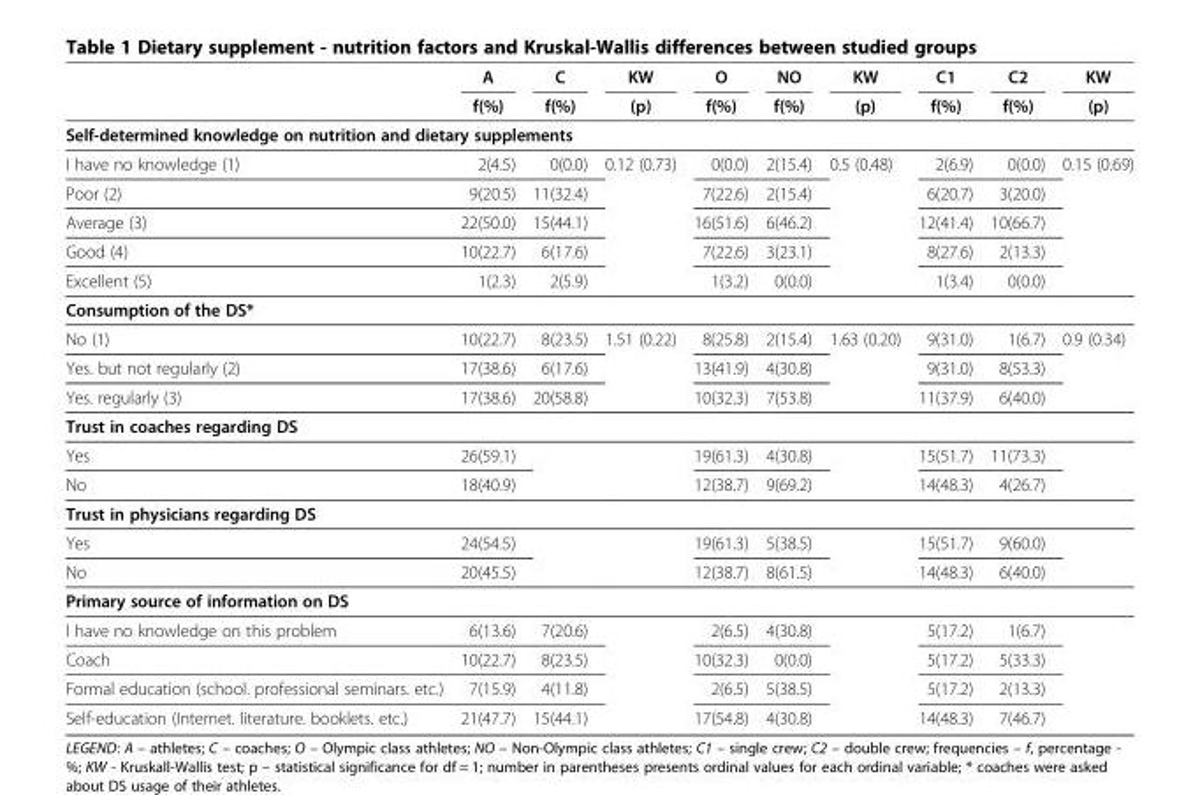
<table><thead><tr><td rowspan="2"></td><td rowspan="2">A f(%)</td><td rowspan="2">C f(%)</td><td rowspan="2">KW (p)</td><td rowspan="2">O f(%)</td><td rowspan="2">NO f(%)</td><td rowspan="2">KW (p)</td><td rowspan="2">C1 f(%)</td><td rowspan="2">C2 f(%)</td><td rowspan="2">KW (p)</td></tr><tr></tr></thead><tbody><tr><td colspan="10">Self-determined knowledge on nutrition and dietary supplements</td></tr><tr><td>I have no knowledge (1)</td><td>2(4.5)</td><td>0(0.0)</td><td rowspan="5">0.12 (0.73)</td><td>0(0.0)</td><td>2(15.4)</td><td rowspan="5">0.5 (0.48)</td><td>2(6.9)</td><td>0(0.0)</td><td rowspan="5">0.15 (0.69)</td></tr><tr><td>Poor (2)</td><td>9(20.5)</td><td>11(32.4)</td><td>7(22.6)</td><td>2(15.4)</td><td>6(20.7)</td><td>3(20.0)</td></tr><tr><td>Average (3)</td><td>22(50.0)</td><td>15(44.1)</td><td>16(51.6)</td><td>6(46.2)</td><td>12(41.4)</td><td>10(66.7)</td></tr><tr><td>Good (4)</td><td>10(22.7)</td><td>6(17.6)</td><td>7(22.6)</td><td>3(23.1)</td><td>8(27.6)</td><td>2(13.3)</td></tr><tr><td>Excellent (5)</td><td>1(2.3)</td><td>2(5.9)</td><td>1(3.2)</td><td>0(0.0)</td><td>1(3.4)</td><td>0(0.0)</td></tr><tr><td colspan="10">Consumption of the DS*</td></tr><tr><td>No (1)</td><td>10(22.7)</td><td>8(23.5)</td><td rowspan="3">1.51 (0.22)</td><td>8(25.8)</td><td>2(15.4)</td><td rowspan="3">1.63 (0.20)</td><td>9(31.0)</td><td>1(6.7)</td><td rowspan="3">0.9 (0.34)</td></tr><tr><td>Yes. but not regularly (2)</td><td>17(38.6)</td><td>6(17.6)</td><td>13(41.9)</td><td>4(30.8)</td><td>9(31.0)</td><td>8(53.3)</td></tr><tr><td>Yes. regularly (3)</td><td>17(38.6)</td><td>20(58.8)</td><td>10(32.3)</td><td>7(53.8)</td><td>11(37.9)</td><td>6(40.0)</td></tr><tr><td colspan="10">Trust in coaches regarding DS</td></tr><tr><td>Yes</td><td>26(59.1)</td><td rowspan="2"></td><td rowspan="2"></td><td>19(61.3)</td><td>4(30.8)</td><td rowspan="2"></td><td>15(51.7)</td><td>11(73.3)</td><td rowspan="2"></td></tr><tr><td>No</td><td>18(40.9)</td><td>12(38.7)</td><td>9(69.2)</td><td>14(48.3)</td><td>4(26.7)</td></tr><tr><td colspan="10">Trust in physicians regarding DS</td></tr><tr><td>Yes</td><td>24(54.5)</td><td rowspan="2"></td><td rowspan="2"></td><td>19(61.3)</td><td>5(38.5)</td><td rowspan="2"></td><td>15(51.7)</td><td>9(60.0)</td><td rowspan="2"></td></tr><tr><td>No</td><td>20(45.5)</td><td>12(38.7)</td><td>8(61.5)</td><td>14(48.3)</td><td>6(40.0)</td></tr><tr><td colspan="10">Primary source of information on DS</td></tr><tr><td>I have no knowledge on this problem</td><td>6(13.6)</td><td>7(20.6)</td><td rowspan="4"></td><td>2(6.5)</td><td>4(30.8)</td><td rowspan="4"></td><td>5(17.2)</td><td>1(6.7)</td><td rowspan="4"></td></tr><tr><td>Coach</td><td>10(22.7)</td><td>8(23.5)</td><td>10(32.3)</td><td>0(0.0)</td><td>5(17.2)</td><td>5(33.3)</td></tr><tr><td>Formal education (school. professional seminars. etc.)</td><td>7(15.9)</td><td>4(11.8)</td><td>2(6.5)</td><td>5(38.5)</td><td>5(17.2)</td><td>2(13.3)</td></tr><tr><td>Self-education (Internet. literature. booklets. etc.)</td><td>21(47.7)</td><td>15(44.1)</td><td>17(54.8)</td><td>4(30.8)</td><td>14(48.3)</td><td>7(46.7)</td></tr></tbody></table>